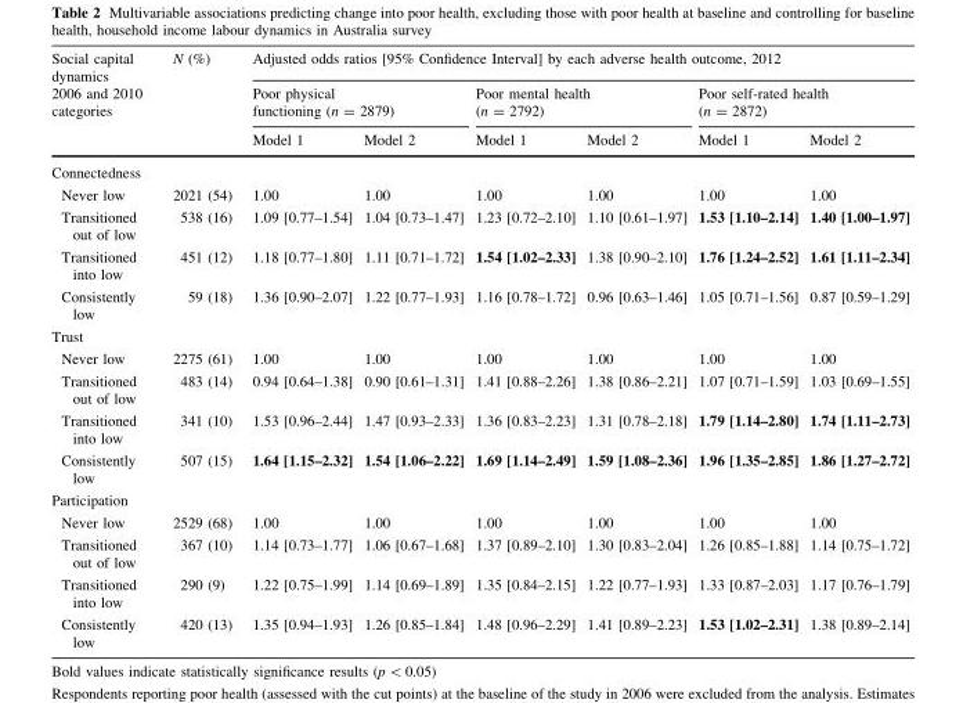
<table><thead><tr><td rowspan="3">Social capital dynamics 2006 and 2010 categories</td><td rowspan="3">N (%)</td><td colspan="6">Adjusted odds ratios [95% Confidence Interval] by each adverse health outcome, 2012</td></tr><tr><td colspan="2">Poor physical functioning (n = 2879)</td><td colspan="2">Poor mental health (n = 2792)</td><td colspan="2">Poor self-rated health (n = 2872)</td></tr><tr><td>Model 1</td><td>Model 2</td><td>Model 1</td><td>Model 2</td><td>Model 1</td><td>Model 2</td></tr></thead><tbody><tr><td colspan="8">Connectedness</td></tr><tr><td>Never low</td><td>2021 (54)</td><td>1.00</td><td>1.00</td><td>1.00</td><td>1.00</td><td>1.00</td><td>1.00</td></tr><tr><td>Transitioned out of low</td><td>538 (16)</td><td>1.09 [0.77–1.54]</td><td>1.04 [0.73–1.47]</td><td>1.23 [0.72–2.10]</td><td>1.10 [0.61–1.97]</td><td>1.53 [1.10–2.14]</td><td>1.40 [1.00–1.97]</td></tr><tr><td>Transitioned into low</td><td>451 (12)</td><td>1.18 [0.77–1.80]</td><td>1.11 [0.71–1.72]</td><td>1.54 [1.02–2.33]</td><td>1.38 [0.90–2.10]</td><td>1.76 [1.24–2.52]</td><td>1.61 [1.11–2.34]</td></tr><tr><td>Consistently low</td><td>59 (18)</td><td>1.36 [0.90–2.07]</td><td>1.22 [0.77–1.93]</td><td>1.16 [0.78–1.72]</td><td>0.96 [0.63–1.46]</td><td>1.05 [0.71–1.56]</td><td>0.87 [0.59–1.29]</td></tr><tr><td colspan="8">Trust</td></tr><tr><td>Never low</td><td>2275 (61)</td><td>1.00</td><td>1.00</td><td>1.00</td><td>1.00</td><td>1.00</td><td>1.00</td></tr><tr><td>Transitioned out of low</td><td>483 (14)</td><td>0.94 [0.64–1.38]</td><td>0.90 [0.61–1.31]</td><td>1.41 [0.88–2.26]</td><td>1.38 [0.86–2.21]</td><td>1.07 [0.71–1.59]</td><td>1.03 [0.69–1.55]</td></tr><tr><td>Transitioned into low</td><td>341 (10)</td><td>1.53 [0.96–2.44]</td><td>1.47 [0.93–2.33]</td><td>1.36 [0.83–2.23]</td><td>1.31 [0.78–2.18]</td><td>1.79 [1.14–2.80]</td><td>1.74 [1.11–2.73]</td></tr><tr><td>Consistently low</td><td>507 (15)</td><td>1.64 [1.15–2.32]</td><td>1.54 [1.06–2.22]</td><td>1.69 [1.14–2.49]</td><td>1.59 [1.08–2.36]</td><td>1.96 [1.35–2.85]</td><td>1.86 [1.27–2.72]</td></tr><tr><td colspan="8">Participation</td></tr><tr><td>Never low</td><td>2529 (68)</td><td>1.00</td><td>1.00</td><td>1.00</td><td>1.00</td><td>1.00</td><td>1.00</td></tr><tr><td>Transitioned out of low</td><td>367 (10)</td><td>1.14 [0.73–1.77]</td><td>1.06 [0.67–1.68]</td><td>1.37 [0.89–2.10]</td><td>1.30 [0.83–2.04]</td><td>1.26 [0.85–1.88]</td><td>1.14 [0.75–1.72]</td></tr><tr><td>Transitioned into low</td><td>290 (9)</td><td>1.22 [0.75–1.99]</td><td>1.14 [0.69–1.89]</td><td>1.35 [0.84–2.15]</td><td>1.22 [0.77–1.93]</td><td>1.33 [0.87–2.03]</td><td>1.17 [0.76–1.79]</td></tr><tr><td>Consistently low</td><td>420 (13)</td><td>1.35 [0.94–1.93]</td><td>1.26 [0.85–1.84]</td><td>1.48 [0.96–2.29]</td><td>1.41 [0.89–2.23]</td><td>1.53 [1.02–2.31]</td><td>1.38 [0.89–2.14]</td></tr></tbody></table>